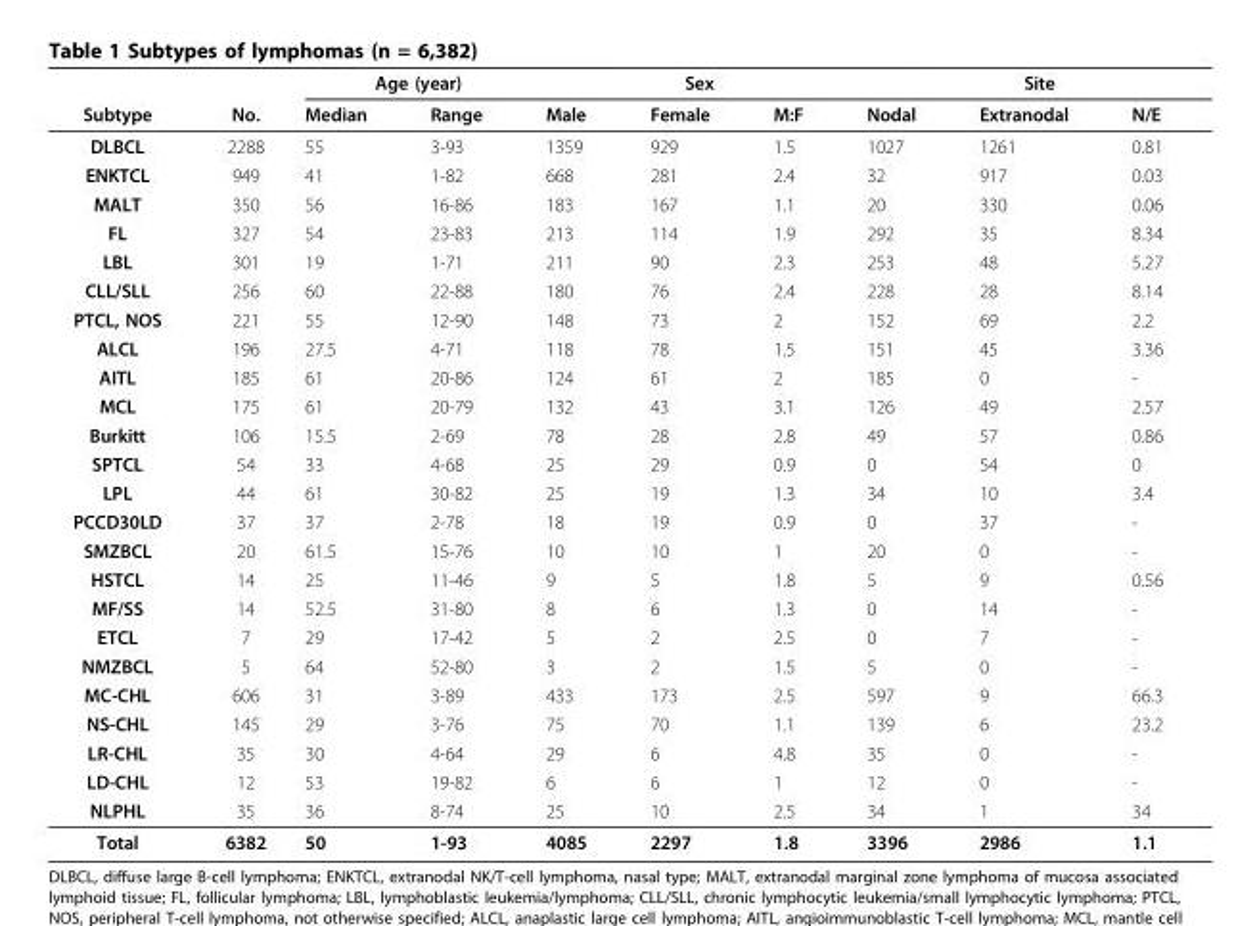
<table><thead><tr><td rowspan="2">Subtype</td><td rowspan="2">No.</td><td colspan="2">Age (year)</td><td colspan="3">Sex</td><td colspan="3">Site</td></tr><tr><td>Median</td><td>Range</td><td>Male</td><td>Female</td><td>M:F</td><td>Nodal</td><td>Extranodal</td><td>N/E</td></tr></thead><tbody><tr><td>DLBCL</td><td>2288</td><td>55</td><td>3-93</td><td>1359</td><td>929</td><td>1.5</td><td>1027</td><td>1261</td><td>0.81</td></tr><tr><td>ENKTCL</td><td>949</td><td>41</td><td>1-82</td><td>668</td><td>281</td><td>2.4</td><td>32</td><td>917</td><td>0.03</td></tr><tr><td>MALT</td><td>350</td><td>56</td><td>16-86</td><td>183</td><td>167</td><td>1.1</td><td>20</td><td>330</td><td>0.06</td></tr><tr><td>FL</td><td>327</td><td>54</td><td>23-83</td><td>213</td><td>114</td><td>1.9</td><td>292</td><td>35</td><td>8.34</td></tr><tr><td>LBL</td><td>301</td><td>19</td><td>1-71</td><td>211</td><td>90</td><td>2.3</td><td>253</td><td>48</td><td>5.27</td></tr><tr><td>CLL/SLL</td><td>256</td><td>60</td><td>22-88</td><td>180</td><td>76</td><td>2.4</td><td>228</td><td>28</td><td>8.14</td></tr><tr><td>PTCL, NOS</td><td>221</td><td>55</td><td>12-90</td><td>148</td><td>73</td><td>2</td><td>152</td><td>69</td><td>2.2</td></tr><tr><td>ALCL</td><td>196</td><td>27.5</td><td>4-71</td><td>118</td><td>78</td><td>1.5</td><td>151</td><td>45</td><td>3.36</td></tr><tr><td>AITL</td><td>185</td><td>61</td><td>20-86</td><td>124</td><td>61</td><td>2</td><td>185</td><td>0</td><td>-</td></tr><tr><td>MCL</td><td>175</td><td>61</td><td>20-79</td><td>132</td><td>43</td><td>3.1</td><td>126</td><td>49</td><td>2.57</td></tr><tr><td>Burkitt</td><td>106</td><td>15.5</td><td>2-69</td><td>78</td><td>28</td><td>2.8</td><td>49</td><td>57</td><td>0.86</td></tr><tr><td>SPTCL</td><td>54</td><td>33</td><td>4-68</td><td>25</td><td>29</td><td>0.9</td><td>0</td><td>54</td><td>0</td></tr><tr><td>LPL</td><td>44</td><td>61</td><td>30-82</td><td>25</td><td>19</td><td>1.3</td><td>34</td><td>10</td><td>3.4</td></tr><tr><td>PCCD30LD</td><td>37</td><td>37</td><td>2-78</td><td>18</td><td>19</td><td>0.9</td><td>0</td><td>37</td><td>-</td></tr><tr><td>SMZBCL</td><td>20</td><td>61.5</td><td>15-76</td><td>10</td><td>10</td><td>1</td><td>20</td><td>0</td><td>-</td></tr><tr><td>HSTCL</td><td>14</td><td>25</td><td>11-46</td><td>9</td><td>5</td><td>1.8</td><td>5</td><td>9</td><td>0.56</td></tr><tr><td>MF/SS</td><td>14</td><td>52.5</td><td>31-80</td><td>8</td><td>6</td><td>1.3</td><td>0</td><td>14</td><td>-</td></tr><tr><td>ETCL</td><td>7</td><td>29</td><td>17-42</td><td>5</td><td>2</td><td>2.5</td><td>0</td><td>7</td><td>-</td></tr><tr><td>NMZBCL</td><td>5</td><td>64</td><td>52-80</td><td>3</td><td>2</td><td>1.5</td><td>5</td><td>0</td><td>-</td></tr><tr><td>MC-CHL</td><td>606</td><td>31</td><td>3-89</td><td>433</td><td>173</td><td>2.5</td><td>597</td><td>9</td><td>66.3</td></tr><tr><td>NS-CHL</td><td>145</td><td>29</td><td>3-76</td><td>75</td><td>70</td><td>1.1</td><td>139</td><td>6</td><td>23.2</td></tr><tr><td>LR-CHL</td><td>35</td><td>30</td><td>4-64</td><td>29</td><td>6</td><td>4.8</td><td>35</td><td>0</td><td>-</td></tr><tr><td>LD-CHL</td><td>12</td><td>53</td><td>19-82</td><td>6</td><td>6</td><td>1</td><td>12</td><td>0</td><td>-</td></tr><tr><td>NLPHL</td><td>35</td><td>36</td><td>8-74</td><td>25</td><td>10</td><td>2.5</td><td>34</td><td>1</td><td>34</td></tr><tr><td>Total</td><td>6382</td><td>50</td><td>1-93</td><td>4085</td><td>2297</td><td>1.8</td><td>3396</td><td>2986</td><td>1.1</td></tr></tbody></table>